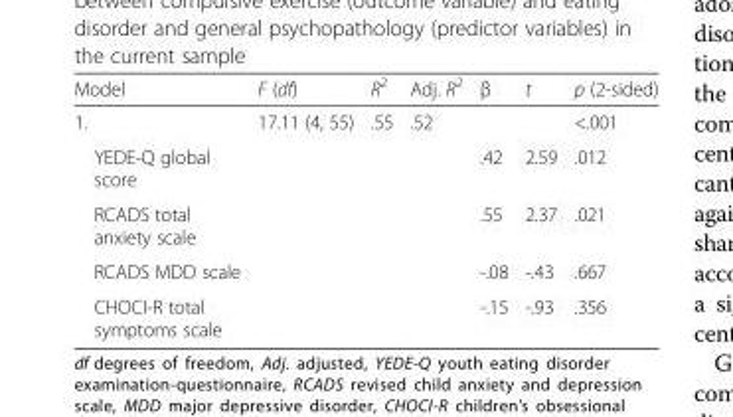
<table><thead><tr><td>Model</td><td>F (df)</td><td>R<sup>2</sup></td><td>Adj. R<sup>2</sup></td><td>β</td><td>t</td><td>p (2-sided)</td></tr></thead><tbody><tr><td>1.</td><td>17.11 (4, 55)</td><td>.55</td><td>.52</td><td></td><td></td><td>&lt;.001</td></tr><tr><td>YEDE-Q global score</td><td></td><td></td><td></td><td>.42</td><td>2.59</td><td>.012</td></tr><tr><td>RCADS total anxiety scale</td><td></td><td></td><td></td><td>.55</td><td>2.37</td><td>.021</td></tr><tr><td>RCADS MDD scale</td><td></td><td></td><td></td><td>-.08</td><td>-.43</td><td>.667</td></tr><tr><td>CHOCI-R total symptoms scale</td><td></td><td></td><td></td><td>-.15</td><td>-.93</td><td>.356</td></tr></tbody></table>